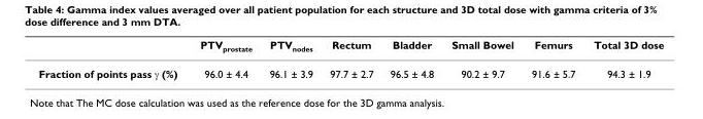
<table><thead><tr><td></td><td>PTV<sub>prostate</sub></td><td>PTV<sub>nodes</sub></td><td>Rectum</td><td>Bladder</td><td>Small Bowel</td><td>Femurs</td><td>Total 3D dose</td></tr></thead><tbody><tr><td>Fraction of points pass γ (%)</td><td>96.0 ± 4.4</td><td>96.1 ± 3.9</td><td>97.7 ± 2.7</td><td>96.5 ± 4.8</td><td>90.2 ± 9.7</td><td>91.6 ± 5.7</td><td>94.3 ± 1.9</td></tr></tbody></table>